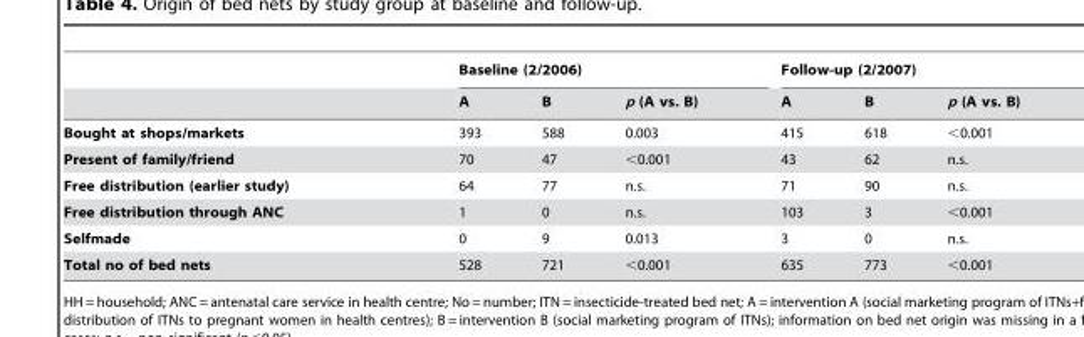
<table><thead><tr><td rowspan="2"></td><td colspan="3">Baseline (2/2006)</td><td colspan="3">Follow-up (2/2007)</td></tr><tr><td>A</td><td>B</td><td>p (A vs. B)</td><td>A</td><td>B</td><td>p (A vs. B)</td></tr></thead><tbody><tr><td>Bought at shops/markets</td><td>393</td><td>588</td><td>0.003</td><td>415</td><td>618</td><td>&lt;0.001</td></tr><tr><td>Present of family/friend</td><td>70</td><td>47</td><td>&lt;0.001</td><td>43</td><td>62</td><td>n.s.</td></tr><tr><td>Free distribution (earlier study)</td><td>64</td><td>77</td><td>n.s.</td><td>71</td><td>90</td><td>n.s.</td></tr><tr><td>Free distribution through ANC</td><td>1</td><td>0</td><td>n.s.</td><td>103</td><td>3</td><td>&lt;0.001</td></tr><tr><td>Selfmade</td><td>0</td><td>9</td><td>0.013</td><td>3</td><td>0</td><td>n.s.</td></tr><tr><td>Total no of bed nets</td><td>528</td><td>721</td><td>&lt;0.001</td><td>635</td><td>773</td><td>&lt;0.001</td></tr></tbody></table>